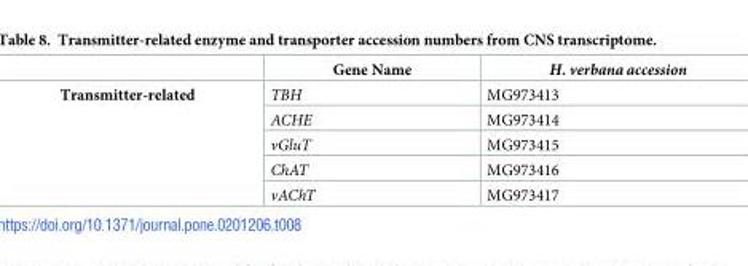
<table><thead><tr><td></td><td>Gene Name</td><td>H. verbana accession</td></tr></thead><tbody><tr><td rowspan="5">Transmitter-related</td><td>TBH</td><td>MG973413</td></tr><tr><td>ACHE</td><td>MG973414</td></tr><tr><td>vGluT</td><td>MG973415</td></tr><tr><td>ChAT</td><td>MG973416</td></tr><tr><td>vAChT</td><td>MG973417</td></tr></tbody></table>